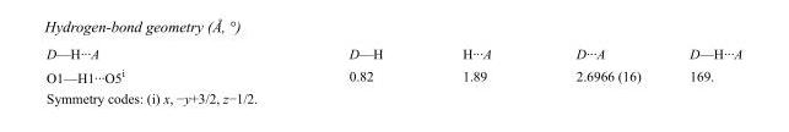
<table><tbody><tr><td>D—H···A</td><td>D—H</td><td>H···A</td><td>D···A</td><td>D—H···A</td></tr><tr><td>O1—H1···O5<sup>i</sup></td><td>0.82</td><td>1.89</td><td>2.6966 (16)</td><td>169.</td></tr></tbody></table>